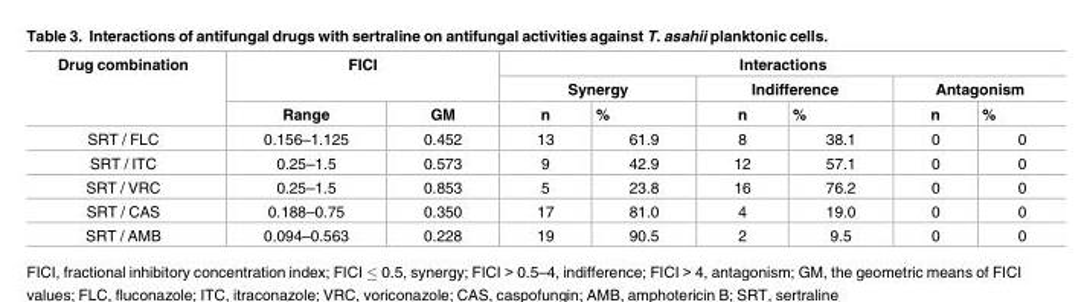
<table><thead><tr><td rowspan="3">Drug combination</td><td rowspan="2" colspan="2">FICI</td><td colspan="6">Interactions</td></tr><tr><td colspan="2">Synergy</td><td colspan="2">Indifference</td><td colspan="2">Antagonism</td></tr><tr><td>Range</td><td>GM</td><td>n</td><td>%</td><td>n</td><td>%</td><td>n</td><td>%</td></tr></thead><tbody><tr><td>SRT / FLC</td><td>0.156–1.125</td><td>0.452</td><td>13</td><td>61.9</td><td>8</td><td>38.1</td><td>0</td><td>0</td></tr><tr><td>SRT / ITC</td><td>0.25–1.5</td><td>0.573</td><td>9</td><td>42.9</td><td>12</td><td>57.1</td><td>0</td><td>0</td></tr><tr><td>SRT / VRC</td><td>0.25–1.5</td><td>0.853</td><td>5</td><td>23.8</td><td>16</td><td>76.2</td><td>0</td><td>0</td></tr><tr><td>SRT / CAS</td><td>0.188–0.75</td><td>0.350</td><td>17</td><td>81.0</td><td>4</td><td>19.0</td><td>0</td><td>0</td></tr><tr><td>SRT / AMB</td><td>0.094–0.563</td><td>0.228</td><td>19</td><td>90.5</td><td>2</td><td>9.5</td><td>0</td><td>0</td></tr></tbody></table>